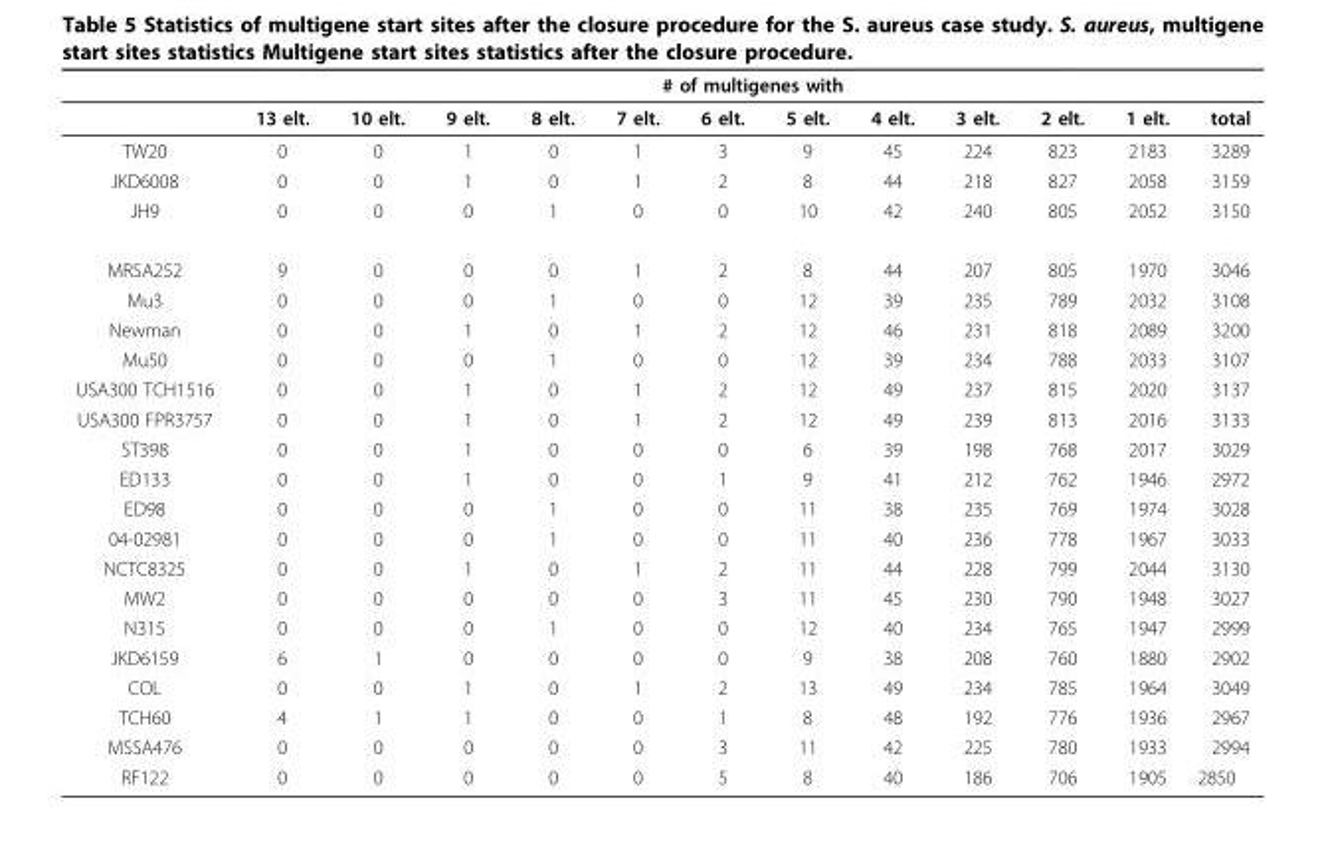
<table><thead><tr><td rowspan="2"></td><td colspan="12"># of multigenes with</td></tr><tr><td>13 elt.</td><td>10 elt.</td><td>9 elt.</td><td>8 elt.</td><td>7 elt.</td><td>6 elt.</td><td>5 elt.</td><td>4 elt.</td><td>3 elt.</td><td>2 elt.</td><td>1 elt.</td><td>total</td></tr></thead><tbody><tr><td>TW20</td><td>0</td><td>0</td><td>1</td><td>0</td><td>1</td><td>3</td><td>9</td><td>45</td><td>224</td><td>823</td><td>2183</td><td>3289</td></tr><tr><td>JKD6008</td><td>0</td><td>0</td><td>1</td><td>0</td><td>1</td><td>2</td><td>8</td><td>44</td><td>218</td><td>827</td><td>2058</td><td>3159</td></tr><tr><td>JH9</td><td>0</td><td>0</td><td>0</td><td>1</td><td>0</td><td>0</td><td>10</td><td>42</td><td>240</td><td>805</td><td>2052</td><td>3150</td></tr><tr><td>MRSA252</td><td>9</td><td>0</td><td>0</td><td>0</td><td>1</td><td>2</td><td>8</td><td>44</td><td>207</td><td>805</td><td>1970</td><td>3046</td></tr><tr><td>Mu3</td><td>0</td><td>0</td><td>0</td><td>1</td><td>0</td><td>0</td><td>12</td><td>39</td><td>235</td><td>789</td><td>2032</td><td>3108</td></tr><tr><td>Newman</td><td>0</td><td>0</td><td>1</td><td>0</td><td>1</td><td>2</td><td>12</td><td>46</td><td>231</td><td>818</td><td>2089</td><td>3200</td></tr><tr><td>Mu50</td><td>0</td><td>0</td><td>0</td><td>1</td><td>0</td><td>0</td><td>12</td><td>39</td><td>234</td><td>788</td><td>2033</td><td>3107</td></tr><tr><td>USA300 TCH1516</td><td>0</td><td>0</td><td>1</td><td>0</td><td>1</td><td>2</td><td>12</td><td>49</td><td>237</td><td>815</td><td>2020</td><td>3137</td></tr><tr><td>USA300 FPR3757</td><td>0</td><td>0</td><td>1</td><td>0</td><td>1</td><td>2</td><td>12</td><td>49</td><td>239</td><td>813</td><td>2016</td><td>3133</td></tr><tr><td>ST398</td><td>0</td><td>0</td><td>1</td><td>0</td><td>0</td><td>0</td><td>6</td><td>39</td><td>198</td><td>768</td><td>2017</td><td>3029</td></tr><tr><td>ED133</td><td>0</td><td>0</td><td>1</td><td>0</td><td>0</td><td>1</td><td>9</td><td>41</td><td>212</td><td>762</td><td>1946</td><td>2972</td></tr><tr><td>ED98</td><td>0</td><td>0</td><td>0</td><td>1</td><td>0</td><td>0</td><td>11</td><td>38</td><td>235</td><td>769</td><td>1974</td><td>3028</td></tr><tr><td>04-02981</td><td>0</td><td>0</td><td>0</td><td>1</td><td>0</td><td>0</td><td>11</td><td>40</td><td>236</td><td>778</td><td>1967</td><td>3033</td></tr><tr><td>NCTC8325</td><td>0</td><td>0</td><td>1</td><td>0</td><td>1</td><td>2</td><td>11</td><td>44</td><td>228</td><td>799</td><td>2044</td><td>3130</td></tr><tr><td>MW2</td><td>0</td><td>0</td><td>0</td><td>0</td><td>0</td><td>3</td><td>11</td><td>45</td><td>230</td><td>790</td><td>1948</td><td>3027</td></tr><tr><td>N315</td><td>0</td><td>0</td><td>0</td><td>1</td><td>0</td><td>0</td><td>12</td><td>40</td><td>234</td><td>765</td><td>1947</td><td>2999</td></tr><tr><td>JKD6159</td><td>6</td><td>1</td><td>0</td><td>0</td><td>0</td><td>0</td><td>9</td><td>38</td><td>208</td><td>760</td><td>1880</td><td>2902</td></tr><tr><td>COL</td><td>0</td><td>0</td><td>1</td><td>0</td><td>1</td><td>2</td><td>13</td><td>49</td><td>234</td><td>785</td><td>1964</td><td>3049</td></tr><tr><td>TCH60</td><td>4</td><td>1</td><td>1</td><td>0</td><td>0</td><td>1</td><td>8</td><td>48</td><td>192</td><td>776</td><td>1936</td><td>2967</td></tr><tr><td>MSSA476</td><td>0</td><td>0</td><td>0</td><td>0</td><td>0</td><td>3</td><td>11</td><td>42</td><td>225</td><td>780</td><td>1933</td><td>2994</td></tr><tr><td>RF122</td><td>0</td><td>0</td><td>0</td><td>0</td><td>0</td><td>5</td><td>8</td><td>40</td><td>186</td><td>706</td><td>1905</td><td>2850</td></tr></tbody></table>